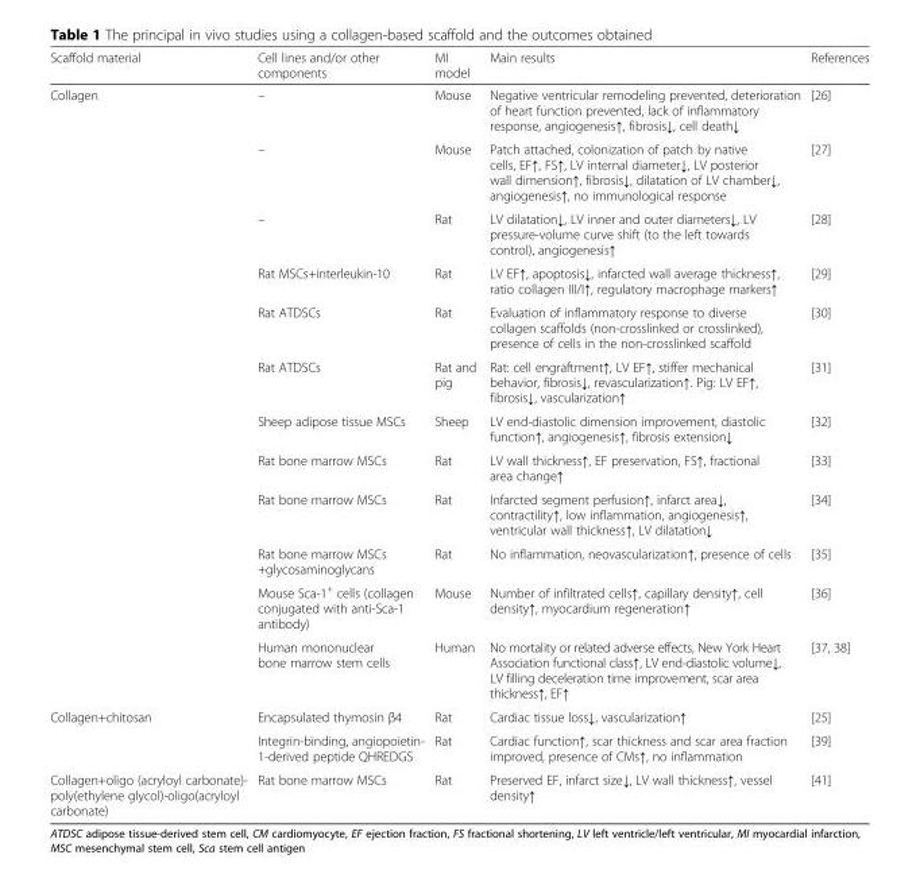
<table><thead><tr><td>Scaffold material</td><td>Cell lines and/or other components</td><td>MI model</td><td>Main results</td><td>References</td></tr></thead><tbody><tr><td rowspan="12">Collagen</td><td>–</td><td>Mouse</td><td>Negative ventricular remodeling prevented, deterioration of heart function prevented, lack of inflammatory response, angiogenesis↑, fibrosis↓, cell death↓</td><td>[26]</td></tr><tr><td>–</td><td>Mouse</td><td>Patch attached, colonization of patch by native cells, EF↑, FS↑, LV internal diameter↓, LV posterior wall dimension↑, fibrosis↓, dilatation of LV chamber↓, angiogenesis↑, no immunological response</td><td>[27]</td></tr><tr><td>–</td><td>Rat</td><td>LV dilatation↓, LV inner and outer diameters↓, LV pressure-volume curve shift (to the left towards control), angiogenesis↑</td><td>[28]</td></tr><tr><td>Rat MSCs+interleukin-10</td><td>Rat</td><td>LV EF↑, apoptosis↓, infarcted wall average thickness↑, ratio collagen III/I↑, regulatory macrophage markers↑</td><td>[29]</td></tr><tr><td>Rat ATDSCs</td><td>Rat</td><td>Evaluation of inflammatory response to diverse collagen scaffolds (non-crosslinked or crosslinked), presence of cells in the non-crosslinked scaffold</td><td>[30]</td></tr><tr><td>Rat ATDSCs</td><td>Rat and pig</td><td>Rat: cell engraftment↑, LV EF↑, stiffer mechanical behavior, fibrosis↓, revascularization↑. Pig: LV EF↑, fibrosis↓, vascularization↑</td><td>[31]</td></tr><tr><td>Sheep adipose tissue MSCs</td><td>Sheep</td><td>LV end-diastolic dimension improvement, diastolic function↑, angiogenesis↑, fibrosis extension↓</td><td>[32]</td></tr><tr><td>Rat bone marrow MSCs</td><td>Rat</td><td>LV wall thickness↑, EF preservation, FS↑, fractional area change↑</td><td>[33]</td></tr><tr><td>Rat bone marrow MSCs</td><td>Rat</td><td>Infarcted segment perfusion↑, infarct area↓, contractility↑, low inflammation, angiogenesis↑, ventricular wall thickness↑, LV dilatation↓</td><td>[34]</td></tr><tr><td>Rat bone marrow MSCs +glycosaminoglycans</td><td>Rat</td><td>No inflammation, neovascularization↑, presence of cells</td><td>[35]</td></tr><tr><td>Mouse Sca-1<sup>+</sup> cells (collagen conjugated with anti-Sca-1 antibody)</td><td>Mouse</td><td>Number of infiltrated cells↑, capillary density↑, cell density↑, myocardium regeneration↑</td><td>[36]</td></tr><tr><td>Human mononuclear bone marrow stem cells</td><td>Human</td><td>No mortality or related adverse effects, New York Heart Association functional class↑, LV end-diastolic volume↓, LV filling deceleration time improvement, scar area thickness↑, EF↑</td><td>[37, 38]</td></tr><tr><td rowspan="2">Collagen+chitosan</td><td>Encapsulated thymosin β4</td><td>Rat</td><td>Cardiac tissue loss↓, vascularization↑</td><td>[25]</td></tr><tr><td>Integrin-binding, angiopoietin- 1-derived peptide QHREDGS</td><td>Rat</td><td>Cardiac function↑, scar thickness and scar area fraction improved, presence of CMs↑, no inflammation</td><td>[39]</td></tr><tr><td>Collagen+oligo (acryloyl carbonate)- poly(ethylene glycol)-oligo(acryloyl carbonate)</td><td>Rat bone marrow MSCs</td><td>Rat</td><td>Preserved EF, infarct size↓, LV wall thickness↑, vessel density↑</td><td>[41]</td></tr></tbody></table>